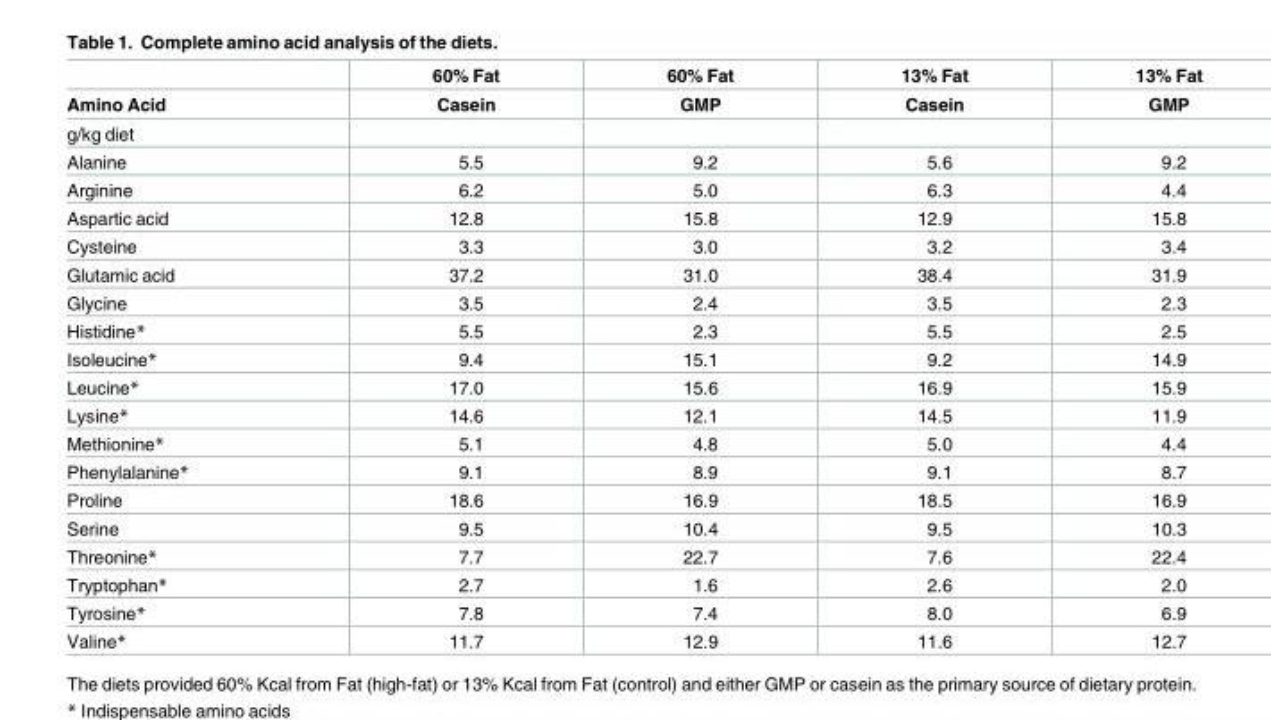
<table><thead><tr><td rowspan="2">Amino Acid</td><td rowspan="2">60% Fat Casein</td><td rowspan="2">60% Fat GMP</td><td rowspan="2">13% Fat Casein</td><td rowspan="2">13% Fat GMP</td></tr><tr></tr></thead><tbody><tr><td colspan="5">g/kg diet</td></tr><tr><td>Alanine</td><td>5.5</td><td>9.2</td><td>5.6</td><td>9.2</td></tr><tr><td>Arginine</td><td>6.2</td><td>5.0</td><td>6.3</td><td>4.4</td></tr><tr><td>Aspartic acid</td><td>12.8</td><td>15.8</td><td>12.9</td><td>15.8</td></tr><tr><td>Cysteine</td><td>3.3</td><td>3.0</td><td>3.2</td><td>3.4</td></tr><tr><td>Glutamic acid</td><td>37.2</td><td>31.0</td><td>38.4</td><td>31.9</td></tr><tr><td>Glycine</td><td>3.5</td><td>2.4</td><td>3.5</td><td>2.3</td></tr><tr><td>Histidine*</td><td>5.5</td><td>2.3</td><td>5.5</td><td>2.5</td></tr><tr><td>Isoleucine*</td><td>9.4</td><td>15.1</td><td>9.2</td><td>14.9</td></tr><tr><td>Leucine*</td><td>17.0</td><td>15.6</td><td>16.9</td><td>15.9</td></tr><tr><td>Lysine*</td><td>14.6</td><td>12.1</td><td>14.5</td><td>11.9</td></tr><tr><td>Methionine*</td><td>5.1</td><td>4.8</td><td>5.0</td><td>4.4</td></tr><tr><td>Phenylalanine*</td><td>9.1</td><td>8.9</td><td>9.1</td><td>8.7</td></tr><tr><td>Proline</td><td>18.6</td><td>16.9</td><td>18.5</td><td>16.9</td></tr><tr><td>Serine</td><td>9.5</td><td>10.4</td><td>9.5</td><td>10.3</td></tr><tr><td>Threonine*</td><td>7.7</td><td>22.7</td><td>7.6</td><td>22.4</td></tr><tr><td>Tryptophan*</td><td>2.7</td><td>1.6</td><td>2.6</td><td>2.0</td></tr><tr><td>Tyrosine*</td><td>7.8</td><td>7.4</td><td>8.0</td><td>6.9</td></tr><tr><td>Valine*</td><td>11.7</td><td>12.9</td><td>11.6</td><td>12.7</td></tr></tbody></table>